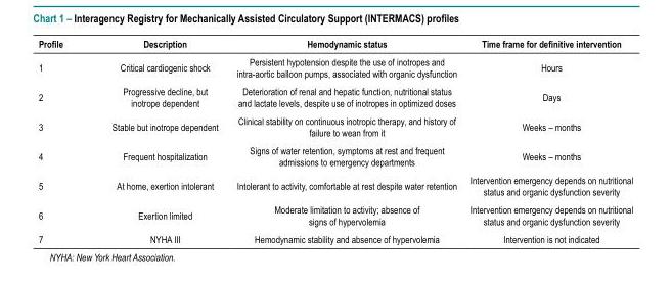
<table><thead><tr><td>Profile</td><td>Description</td><td>Hemodynamic status</td><td>Time frame for definitive intervention</td></tr></thead><tbody><tr><td>1</td><td>Critical cardiogenic shock</td><td>Persistent hypotension despite the use of inotropes and intra‑aortic balloon pumps, associated with organic dysfunction</td><td>Hours</td></tr><tr><td>2</td><td>Progressive decline, but inotrope dependent</td><td>Deterioration of renal and hepatic function, nutritional status and lactate levels, despite use of inotropes in optimized doses</td><td>Days</td></tr><tr><td>3</td><td>Stable but inotrope dependent</td><td>Clinical stability on continuous inotropic therapy, and history of failure to wean from it</td><td>Weeks – months</td></tr><tr><td>4</td><td>Frequent hospitalization</td><td>Signs of water retention, symptoms at rest and frequent admissions to emergency departments</td><td>Weeks – months</td></tr><tr><td>5</td><td>At home, exertion intolerant</td><td>Intolerant to activity, comfortable at rest despite water retention</td><td>Intervention emergency depends on nutritional status and organic dysfunction severity</td></tr><tr><td>6</td><td>Exertion limited</td><td>Moderate limitation to activity; absence of signs of hypervolemia</td><td>Intervention emergency depends on nutritional status and organic dysfunction severity</td></tr><tr><td>7</td><td>NYHA III</td><td>Hemodynamic stability and absence of hypervolemia</td><td>Intervention is not indicated</td></tr></tbody></table>